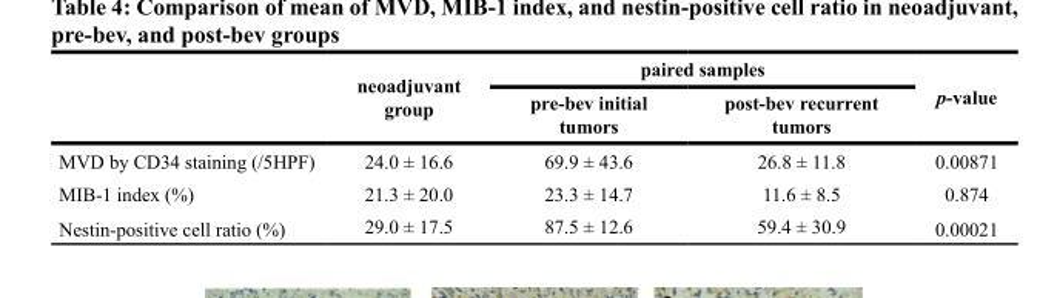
<table><thead><tr><td rowspan="2"></td><td rowspan="2">neoadjuvant group</td><td colspan="2">paired samples</td><td rowspan="2">p-value</td></tr><tr><td>pre-bev initial tumors</td><td>post-bev recurrent tumors</td></tr></thead><tbody><tr><td>MVD by CD34 staining (/5HPF)</td><td>24.0 ± 16.6</td><td>69.9 ± 43.6</td><td>26.8 ± 11.8</td><td>0.00871</td></tr><tr><td>MIB-1 index (%)</td><td>21.3 ± 20.0</td><td>23.3 ± 14.7</td><td>11.6 ± 8.5</td><td>0.874</td></tr><tr><td>Nestin-positive cell ratio (%)</td><td>29.0 ± 17.5</td><td>87.5 ± 12.6</td><td>59.4 ± 30.9</td><td>0.00021</td></tr></tbody></table>